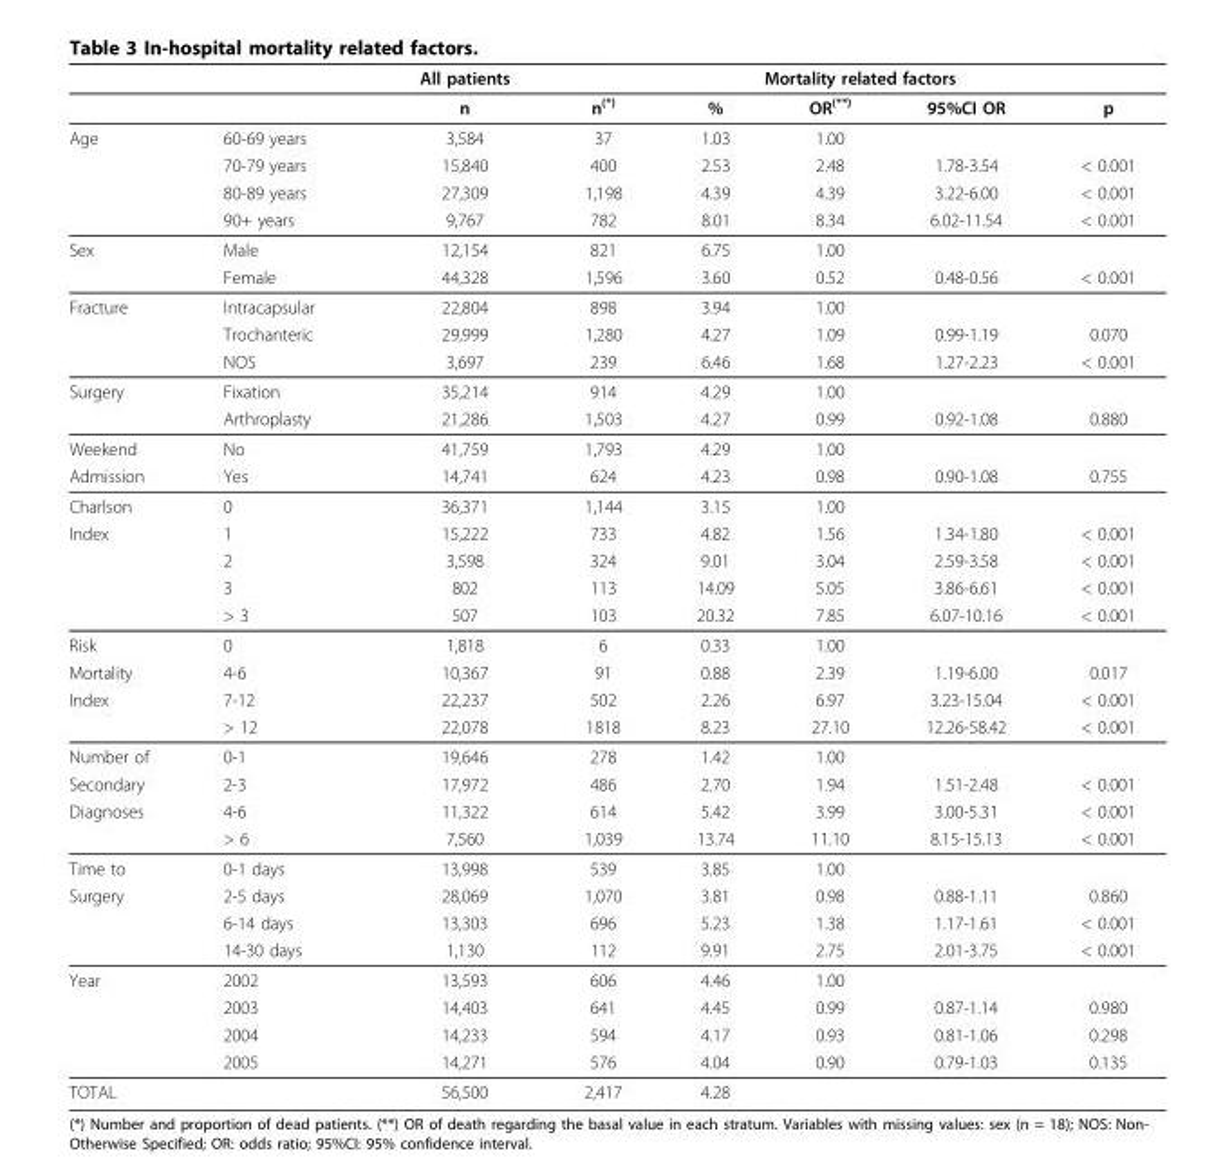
<table><thead><tr><td rowspan="2"></td><td rowspan="2"></td><td rowspan="2">All patients n</td><td colspan="5">Mortality related factors</td></tr><tr><td>n(*)</td><td>%</td><td>OR(**)</td><td>95%CI OR</td><td>p</td></tr></thead><tbody><tr><td rowspan="4">Age</td><td>60-69 years</td><td>3,584</td><td>37</td><td>1.03</td><td>1.00</td><td></td><td></td></tr><tr><td>70-79 years</td><td>15,840</td><td>400</td><td>2.53</td><td>2.48</td><td>1.78-3.54</td><td>&lt; 0.001</td></tr><tr><td>80-89 years</td><td>27,309</td><td>1,198</td><td>4.39</td><td>4.39</td><td>3.22-6.00</td><td>&lt; 0.001</td></tr><tr><td>90+ years</td><td>9,767</td><td>782</td><td>8.01</td><td>8.34</td><td>6.02-11.54</td><td>&lt; 0.001</td></tr><tr><td rowspan="2">Sex</td><td>Male</td><td>12,154</td><td>821</td><td>6.75</td><td>1.00</td><td></td><td></td></tr><tr><td>Female</td><td>44,328</td><td>1,596</td><td>3.60</td><td>0.52</td><td>0.48-0.56</td><td>&lt; 0.001</td></tr><tr><td rowspan="3">Fracture</td><td>Intracapsular</td><td>22,804</td><td>898</td><td>3.94</td><td>1.00</td><td></td><td></td></tr><tr><td>Trochanteric</td><td>29,999</td><td>1,280</td><td>4.27</td><td>1.09</td><td>0.99-1.19</td><td>0.070</td></tr><tr><td>NOS</td><td>3,697</td><td>239</td><td>6.46</td><td>1.68</td><td>1.27-2.23</td><td>&lt; 0.001</td></tr><tr><td rowspan="2">Surgery</td><td>Fixation</td><td>35,214</td><td>914</td><td>4.29</td><td>1.00</td><td></td><td></td></tr><tr><td>Arthroplasty</td><td>21,286</td><td>1,503</td><td>4.27</td><td>0.99</td><td>0.92-1.08</td><td>0.880</td></tr><tr><td>Weekend</td><td>No</td><td>41,759</td><td>1,793</td><td>4.29</td><td>1.00</td><td></td><td></td></tr><tr><td>Admission</td><td>Yes</td><td>14,741</td><td>624</td><td>4.23</td><td>0.98</td><td>0.90-1.08</td><td>0.755</td></tr><tr><td>Charlson</td><td>0</td><td>36,371</td><td>1,144</td><td>3.15</td><td>1.00</td><td></td><td></td></tr><tr><td rowspan="4">Index</td><td>1</td><td>15,222</td><td>733</td><td>4.82</td><td>1.56</td><td>1.34-1.80</td><td>&lt; 0.001</td></tr><tr><td>2</td><td>3,598</td><td>324</td><td>9.01</td><td>3.04</td><td>2.59-3.58</td><td>&lt; 0.001</td></tr><tr><td>3</td><td>802</td><td>113</td><td>14.09</td><td>5.05</td><td>3.86-6.61</td><td>&lt; 0.001</td></tr><tr><td>&gt; 3</td><td>507</td><td>103</td><td>20.32</td><td>7.85</td><td>6.07-10.16</td><td>&lt; 0.001</td></tr><tr><td>Risk</td><td>0</td><td>1,818</td><td>6</td><td>0.33</td><td>1.00</td><td></td><td></td></tr><tr><td>Mortality</td><td>4-6</td><td>10,367</td><td>91</td><td>0.88</td><td>2.39</td><td>1.19-6.00</td><td>0.017</td></tr><tr><td rowspan="2">Index</td><td>7-12</td><td>22,237</td><td>502</td><td>2.26</td><td>6.97</td><td>3.23-15.04</td><td>&lt; 0.001</td></tr><tr><td>&gt; 12</td><td>22,078</td><td>1818</td><td>8.23</td><td>27.10</td><td>12.26-58.42</td><td>&lt; 0.001</td></tr><tr><td>Number of</td><td>0-1</td><td>19,646</td><td>278</td><td>1.42</td><td>1.00</td><td></td><td></td></tr><tr><td>Secondary</td><td>2-3</td><td>17,972</td><td>486</td><td>2.70</td><td>1.94</td><td>1.51-2.48</td><td>&lt; 0.001</td></tr><tr><td rowspan="2">Diagnoses</td><td>4-6</td><td>11,322</td><td>614</td><td>5.42</td><td>3.99</td><td>3.00-5.31</td><td>&lt; 0.001</td></tr><tr><td>&gt; 6</td><td>7,560</td><td>1,039</td><td>13.74</td><td>11.10</td><td>8.15-15.13</td><td>&lt; 0.001</td></tr><tr><td>Time to</td><td>0-1 days</td><td>13,998</td><td>539</td><td>3.85</td><td>1.00</td><td></td><td></td></tr><tr><td rowspan="3">Surgery</td><td>2-5 days</td><td>28,069</td><td>1,070</td><td>3.81</td><td>0.98</td><td>0.88-1.11</td><td>0.860</td></tr><tr><td>6-14 days</td><td>13,303</td><td>696</td><td>5.23</td><td>1.38</td><td>1.17-1.61</td><td>&lt; 0.001</td></tr><tr><td>14-30 days</td><td>1,130</td><td>112</td><td>9.91</td><td>2.75</td><td>2.01-3.75</td><td>&lt; 0.001</td></tr><tr><td rowspan="4">Year</td><td>2002</td><td>13,593</td><td>606</td><td>4.46</td><td>1.00</td><td></td><td></td></tr><tr><td>2003</td><td>14,403</td><td>641</td><td>4.45</td><td>0.99</td><td>0.87-1.14</td><td>0.980</td></tr><tr><td>2004</td><td>14,233</td><td>594</td><td>4.17</td><td>0.93</td><td>0.81-1.06</td><td>0.298</td></tr><tr><td>2005</td><td>14,271</td><td>576</td><td>4.04</td><td>0.90</td><td>0.79-1.03</td><td>0.135</td></tr><tr><td>TOTAL</td><td></td><td>56,500</td><td>2,417</td><td>4.28</td><td></td><td></td><td></td></tr></tbody></table>